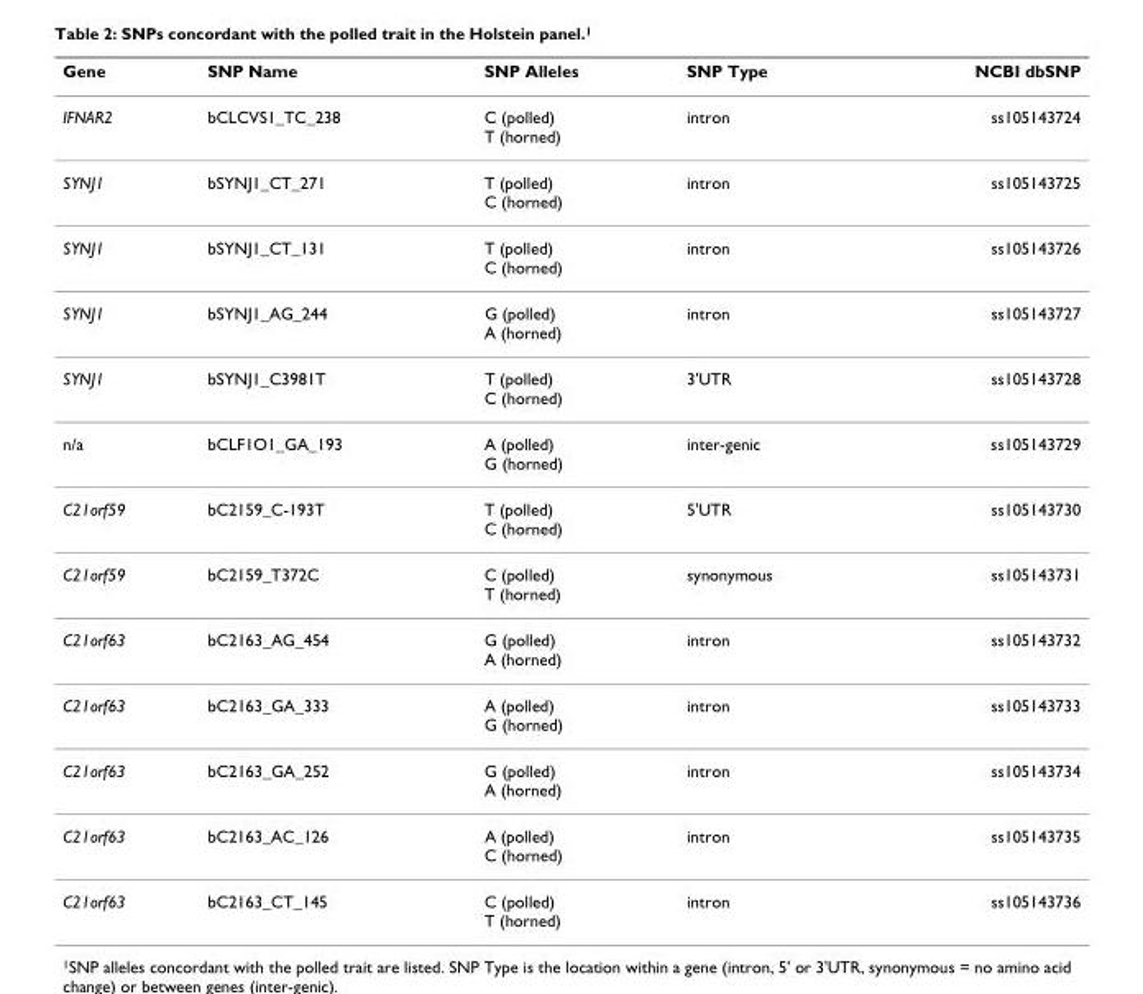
<table><thead><tr><td>Gene</td><td>SNP Name</td><td>SNP Alleles</td><td>SNP Type</td><td>NCBI dbSNP</td></tr></thead><tbody><tr><td>IFNAR2</td><td>bCLCVS1_TC_238</td><td>C (polled) T (horned)</td><td>intron</td><td>ss105143724</td></tr><tr><td>SYNJ1</td><td>bSYNJ1_CT_271</td><td>T (polled) C (horned)</td><td>intron</td><td>ss105143725</td></tr><tr><td>SYNJ1</td><td>bSYNJ1_CT_131</td><td>T (polled) C (horned)</td><td>intron</td><td>ss105143726</td></tr><tr><td>SYNJ1</td><td>bSYNJ1_AG_244</td><td>G (polled) A (horned)</td><td>intron</td><td>ss105143727</td></tr><tr><td>SYNJ1</td><td>bSYNJ1_C3981T</td><td>T (polled) C (horned)</td><td>3&#x27;UTR</td><td>ss105143728</td></tr><tr><td>n/a</td><td>bCLF1O1_GA_193</td><td>A (polled) G (horned)</td><td>inter-genic</td><td>ss105143729</td></tr><tr><td>C21orf59</td><td>bC2159_C-193T</td><td>T (polled) C (horned)</td><td>5&#x27;UTR</td><td>ss105143730</td></tr><tr><td>C21orf59</td><td>bC2159_T372C</td><td>C (polled) T (horned)</td><td>synonymous</td><td>ss105143731</td></tr><tr><td>C21orf63</td><td>bC2163_AG_454</td><td>G (polled) A (horned)</td><td>intron</td><td>ss105143732</td></tr><tr><td>C21orf63</td><td>bC2163_GA_333</td><td>A (polled) G (horned)</td><td>intron</td><td>ss105143733</td></tr><tr><td>C21orf63</td><td>bC2163_GA_252</td><td>G (polled) A (horned)</td><td>intron</td><td>ss105143734</td></tr><tr><td>C21orf63</td><td>bC2163_AC_126</td><td>A (polled) C (horned)</td><td>intron</td><td>ss105143735</td></tr><tr><td>C21orf63</td><td>bC2163_CT_145</td><td>C (polled) T (horned)</td><td>intron</td><td>ss105143736</td></tr></tbody></table>